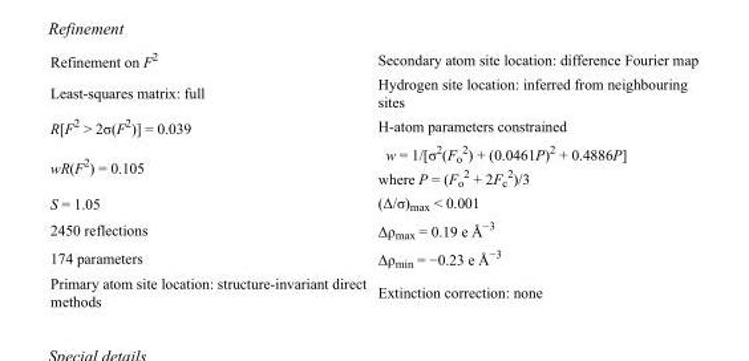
<table><tbody><tr><td>Refinement on F<sup>2</sup></td><td>Secondary atom site location: difference Fourier map</td></tr><tr><td>Least-squares matrix: full</td><td>Hydrogen site location: inferred from neighbouring sites</td></tr><tr><td>R[F<sup>2</sup> &gt; 2σ(F<sup>2</sup>)] = 0.039</td><td>H-atom parameters constrained</td></tr><tr><td>wR(F<sup>2</sup>) = 0.105</td><td>w = 1/[σ<sup>2</sup>(F<sub>o</sub> <sup>2</sup>) + (0.0461P)<sup>2</sup> + 0.4886P] where P = (F<sub>o</sub> <sup>2</sup> + 2F<sub>c</sub> <sup>2</sup>)/3</td></tr><tr><td>S = 1.05</td><td>(Δ/σ)<sub>max</sub> &lt; 0.001</td></tr><tr><td>2450 reflections</td><td>Δρ<sub>max</sub> = 0.19 e Å<sup>−3</sup></td></tr><tr><td>174 parameters</td><td>Δρ<sub>min</sub> = −0.23 e Å<sup>−3</sup></td></tr><tr><td>Primary atom site location: structure-invariant direct methods</td><td>Extinction correction: none</td></tr></tbody></table>